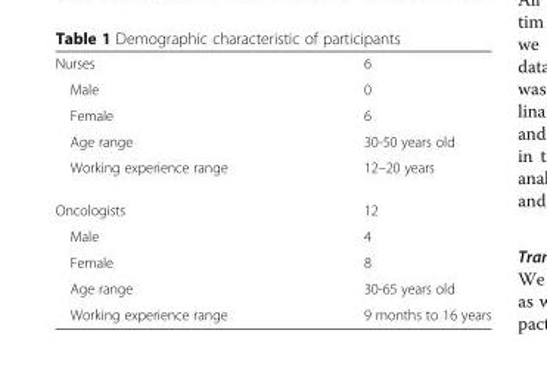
<table><tbody><tr><td>Nurses</td><td>6</td></tr><tr><td>Male</td><td>0</td></tr><tr><td>Female</td><td>6</td></tr><tr><td>Age range</td><td>30-50 years old</td></tr><tr><td>Working experience range</td><td>12–20 years</td></tr><tr><td>Oncologists</td><td>12</td></tr><tr><td>Male</td><td>4</td></tr><tr><td>Female</td><td>8</td></tr><tr><td>Age range</td><td>30-65 years old</td></tr><tr><td>Working experience range</td><td>9 months to 16 years</td></tr></tbody></table>